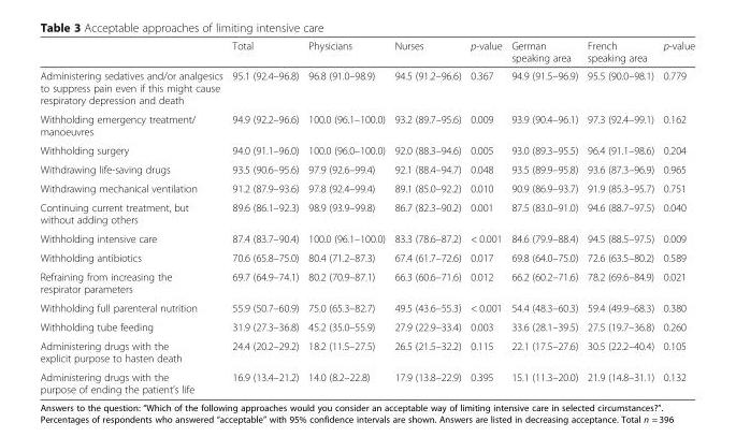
<table><thead><tr><td></td><td>Total</td><td>Physicians</td><td>Nurses</td><td>p-value</td><td>German speaking area</td><td>French speaking area</td><td>p-value</td></tr></thead><tbody><tr><td>Administering sedatives and/or analgesics to suppress pain even if this might cause respiratory depression and death</td><td>95.1 (92.4–96.8)</td><td>96.8 (91.0–98.9)</td><td>94.5 (91.2–96.6)</td><td>0.367</td><td>94.9 (91.5–96.9)</td><td>95.5 (90.0–98.1)</td><td>0.779</td></tr><tr><td>Withholding emergency treatment/ manoeuvres</td><td>94.9 (92.2–96.6)</td><td>100.0 (96.1–100.0)</td><td>93.2 (89.7–95.6)</td><td>0.009</td><td>93.9 (90.4–96.1)</td><td>97.3 (92.4–99.1)</td><td>0.162</td></tr><tr><td>Withholding surgery</td><td>94.0 (91.1–96.0)</td><td>100.0 (96.0–100.0)</td><td>92.0 (88.3–94.6)</td><td>0.005</td><td>93.0 (89.3–95.5)</td><td>96.4 (91.1–98.6)</td><td>0.204</td></tr><tr><td>Withdrawing life-saving drugs</td><td>93.5 (90.6–95.6)</td><td>97.9 (92.6–99.4)</td><td>92.1 (88.4–94.7)</td><td>0.048</td><td>93.5 (89.9–95.8)</td><td>93.6 (87.3–96.9)</td><td>0.965</td></tr><tr><td>Withdrawing mechanical ventilation</td><td>91.2 (87.9–93.6)</td><td>97.8 (92.4–99.4)</td><td>89.1 (85.0–92.2)</td><td>0.010</td><td>90.9 (86.9–93.7)</td><td>91.9 (85.3–95.7)</td><td>0.751</td></tr><tr><td>Continuing current treatment, but without adding others</td><td>89.6 (86.1–92.3)</td><td>98.9 (93.9–99.8)</td><td>86.7 (82.3–90.2)</td><td>0.001</td><td>87.5 (83.0–91.0)</td><td>94.6 (88.7–97.5)</td><td>0.040</td></tr><tr><td>Withholding intensive care</td><td>87.4 (83.7–90.4)</td><td>100.0 (96.1–100.0)</td><td>83.3 (78.6–87.2)</td><td>&lt; 0.001</td><td>84.6 (79.9–88.4)</td><td>94.5 (88.5–97.5)</td><td>0.009</td></tr><tr><td>Withholding antibiotics</td><td>70.6 (65.8–75.0)</td><td>80.4 (71.2–87.3)</td><td>67.4 (61.7–72.6)</td><td>0.017</td><td>69.8 (64.0–75.0)</td><td>72.6 (63.5–80.2)</td><td>0.589</td></tr><tr><td>Refraining from increasing the respirator parameters</td><td>69.7 (64.9–74.1)</td><td>80.2 (70.9–87.1)</td><td>66.3 (60.6–71.6)</td><td>0.012</td><td>66.2 (60.2–71.6)</td><td>78.2 (69.6–84.9)</td><td>0.021</td></tr><tr><td>Withholding full parenteral nutrition</td><td>55.9 (50.7–60.9)</td><td>75.0 (65.3–82.7)</td><td>49.5 (43.6–55.3)</td><td>&lt; 0.001</td><td>54.4 (48.3–60.3)</td><td>59.4 (49.9–68.3)</td><td>0.380</td></tr><tr><td>Withholding tube feeding</td><td>31.9 (27.3–36.8)</td><td>45.2 (35.0–55.9)</td><td>27.9 (22.9–33.4)</td><td>0.003</td><td>33.6 (28.1–39.5)</td><td>27.5 (19.7–36.8)</td><td>0.260</td></tr><tr><td>Administering drugs with the explicit purpose to hasten death</td><td>24.4 (20.2–29.2)</td><td>18.2 (11.5–27.5)</td><td>26.5 (21.5–32.2)</td><td>0.115</td><td>22.1 (17.5–27.6)</td><td>30.5 (22.2–40.4)</td><td>0.105</td></tr><tr><td>Administering drugs with the purpose of ending the patient’s life</td><td>16.9 (13.4–21.2)</td><td>14.0 (8.2–22.8)</td><td>17.9 (13.8–22.9)</td><td>0.395</td><td>15.1 (11.3–20.0)</td><td>21.9 (14.8–31.1)</td><td>0.132</td></tr></tbody></table>